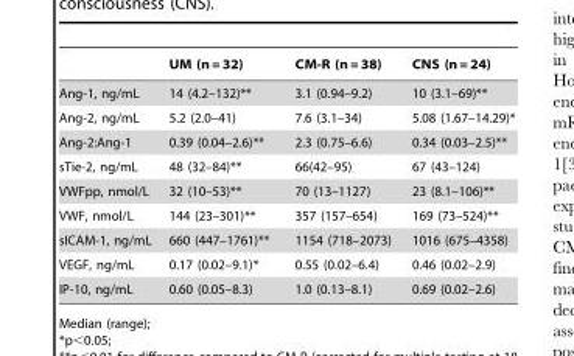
<table><thead><tr><td></td><td>UM (n = 32)</td><td>CM-R (n = 38)</td><td>CNS (n = 24)</td></tr></thead><tbody><tr><td>Ang-1, ng/mL</td><td>14 (4.2–132)**</td><td>3.1 (0.94–9.2)</td><td>10 (3.1–69)**</td></tr><tr><td>Ang-2, ng/mL</td><td>5.2 (2.0–41)</td><td>7.6 (3.1–34)</td><td>5.08 (1.67–14.29)*</td></tr><tr><td>Ang-2:Ang-1</td><td>0.39 (0.04–2.6)**</td><td>2.3 (0.75–6.6)</td><td>0.34 (0.03–2.5)**</td></tr><tr><td>sTie-2, ng/mL</td><td>48 (32–84)**</td><td>66(42–95)</td><td>67 (43–124)</td></tr><tr><td>VWFpp, nmol/L</td><td>32 (10–53)**</td><td>70 (13–1127)</td><td>23 (8.1–106)**</td></tr><tr><td>VWF, nmol/L</td><td>144 (23–301)**</td><td>357 (157–654)</td><td>169 (73–524)**</td></tr><tr><td>sICAM-1, ng/mL</td><td>660 (447–1761)**</td><td>1154 (718–2073)</td><td>1016 (675–4358)</td></tr><tr><td>VEGF, ng/mL</td><td>0.17 (0.02–9.1)*</td><td>0.55 (0.02–6.4)</td><td>0.46 (0.02–2.9)</td></tr><tr><td>IP-10, ng/mL</td><td>0.60 (0.05–8.3)</td><td>1.0 (0.13–8.1)</td><td>0.69 (0.02–2.6)</td></tr></tbody></table>